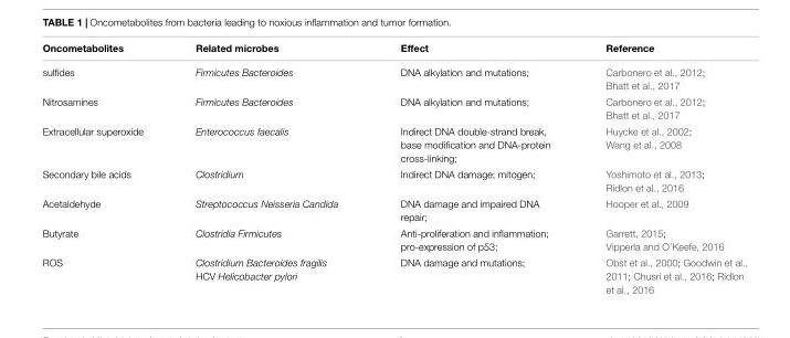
<table><thead><tr><td>Oncometabolites</td><td>Related microbes</td><td>Effect</td><td>Reference</td></tr></thead><tbody><tr><td>sulfides</td><td>Firmicutes Bacteroides</td><td>DNA alkylation and mutations;</td><td>Carbonero et al., 2012; Bhatt et al., 2017</td></tr><tr><td>Nitrosamines</td><td>Firmicutes Bacteroides</td><td>DNA alkylation and mutations;</td><td>Carbonero et al., 2012; Bhatt et al., 2017</td></tr><tr><td>Extracellular superoxide</td><td>Enterococcus faecalis</td><td>Indirect DNA double-strand break, base modification and DNA-protein cross-linking;</td><td>Huycke et al., 2002; Wang et al., 2008</td></tr><tr><td>Secondary bile acids</td><td>Clostridium</td><td>Indirect DNA damage; mitogen;</td><td>Yoshimoto et al., 2013; Ridlon et al., 2016</td></tr><tr><td>Acetaldehyde</td><td>Streptococcus Neisseria Candida</td><td>DNA damage and impaired DNA repair;</td><td>Hooper et al., 2009</td></tr><tr><td>Butyrate</td><td>Clostridia Firmicutes</td><td>Anti-proliferation and inflammation; pro-expression of p53;</td><td>Garrett, 2015; Vipperla and O’Keefe, 2016</td></tr><tr><td>ROS</td><td>Clostridium Bacteroides fragilis HCV Helicobacter pylori</td><td>DNA damage and mutations;</td><td>Obst et al., 2000; Goodwin et al., 2011; Chusri et al., 2016; Ridlon et al., 2016</td></tr></tbody></table>